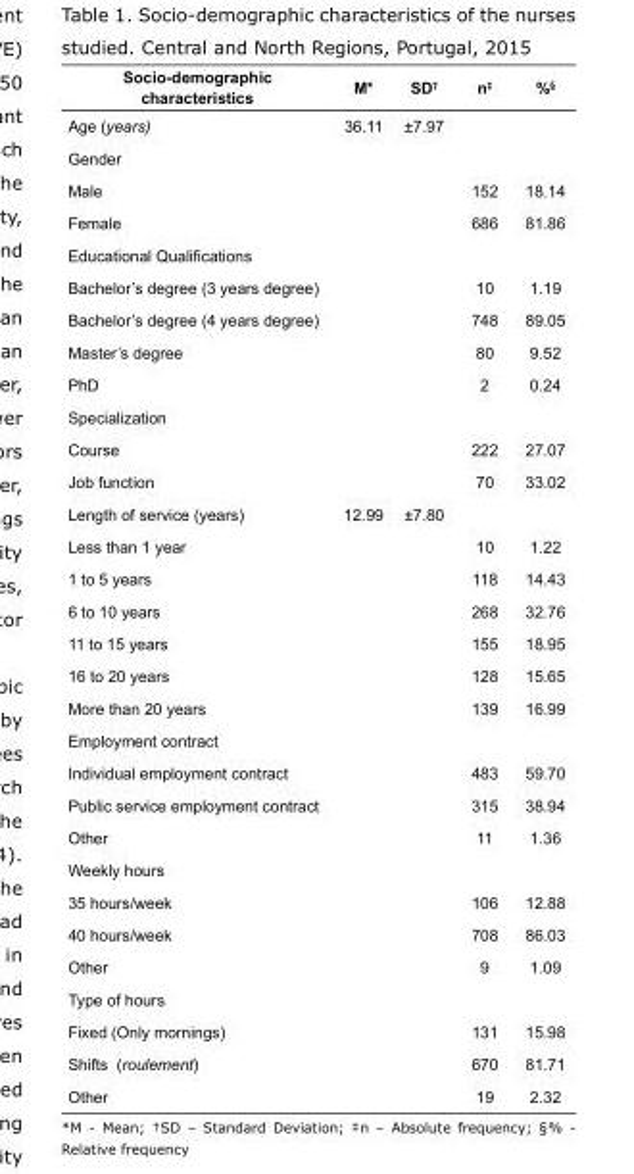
<table><tbody><tr><td>Socio-demographic characteristics</td><td>M*</td><td>SD<sup>†</sup></td><td>n<sup>‡</sup></td><td>%<sup>§</sup></td></tr><tr><td>Age (years)</td><td>36.11</td><td>±7.97</td><td></td><td></td></tr><tr><td colspan="5">Gender</td></tr><tr><td>Male</td><td></td><td></td><td>152</td><td>18.14</td></tr><tr><td>Female</td><td></td><td></td><td>686</td><td>81.86</td></tr><tr><td colspan="5">Educational Qualifications</td></tr><tr><td>Bachelor’s degree (3 years degree)</td><td></td><td></td><td>10</td><td>1.19</td></tr><tr><td>Bachelor’s degree (4 years degree)</td><td></td><td></td><td>748</td><td>89.05</td></tr><tr><td>Master’s degree</td><td></td><td></td><td>80</td><td>9.52</td></tr><tr><td>PhD</td><td></td><td></td><td>2</td><td>0.24</td></tr><tr><td colspan="5">Specialization</td></tr><tr><td>Course</td><td></td><td></td><td>222</td><td>27.07</td></tr><tr><td>Job function</td><td></td><td></td><td>70</td><td>33.02</td></tr><tr><td>Length of service (years)</td><td>12.99</td><td>±7.80</td><td></td><td></td></tr><tr><td>Less than 1 year</td><td></td><td></td><td>10</td><td>1.22</td></tr><tr><td>1 to 5 years</td><td></td><td></td><td>118</td><td>14.43</td></tr><tr><td>6 to 10 years</td><td></td><td></td><td>268</td><td>32.76</td></tr><tr><td>11 to 15 years</td><td></td><td></td><td>155</td><td>18.95</td></tr><tr><td>16 to 20 years</td><td></td><td></td><td>128</td><td>15.65</td></tr><tr><td>More than 20 years</td><td></td><td></td><td>139</td><td>16.99</td></tr><tr><td colspan="5">Employment contract</td></tr><tr><td>Individual employment contract</td><td></td><td></td><td>483</td><td>59.70</td></tr><tr><td>Public service employment contract</td><td></td><td></td><td>315</td><td>38.94</td></tr><tr><td>Other</td><td></td><td></td><td>11</td><td>1.36</td></tr><tr><td colspan="5">Weekly hours</td></tr><tr><td>35 hours/week</td><td></td><td></td><td>106</td><td>12.88</td></tr><tr><td>40 hours/week</td><td></td><td></td><td>708</td><td>86.03</td></tr><tr><td>Other</td><td></td><td></td><td>9</td><td>1.09</td></tr><tr><td colspan="5">Type of hours</td></tr><tr><td>Fixed (Only mornings)</td><td></td><td></td><td>131</td><td>15.98</td></tr><tr><td>Shifts (roulement)</td><td></td><td></td><td>670</td><td>81.71</td></tr><tr><td>Other</td><td></td><td></td><td>19</td><td>2.32</td></tr></tbody></table>